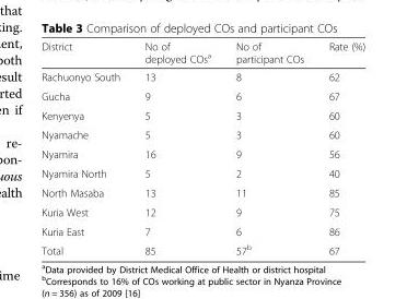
<table><thead><tr><td>District</td><td>No of deployed COs<sup>a</sup></td><td>No of participant COs</td><td>Rate (%)</td></tr></thead><tbody><tr><td>Rachuonyo South</td><td>13</td><td>8</td><td>62</td></tr><tr><td>Gucha</td><td>9</td><td>6</td><td>67</td></tr><tr><td>Kenyenya</td><td>5</td><td>3</td><td>60</td></tr><tr><td>Nyamache</td><td>5</td><td>3</td><td>60</td></tr><tr><td>Nyamira</td><td>16</td><td>9</td><td>56</td></tr><tr><td>Nyamira North</td><td>5</td><td>2</td><td>40</td></tr><tr><td>North Masaba</td><td>13</td><td>11</td><td>85</td></tr><tr><td>Kuria West</td><td>12</td><td>9</td><td>75</td></tr><tr><td>Kuria East</td><td>7</td><td>6</td><td>86</td></tr><tr><td>Total</td><td>85</td><td>57<sup>b</sup></td><td>67</td></tr></tbody></table>